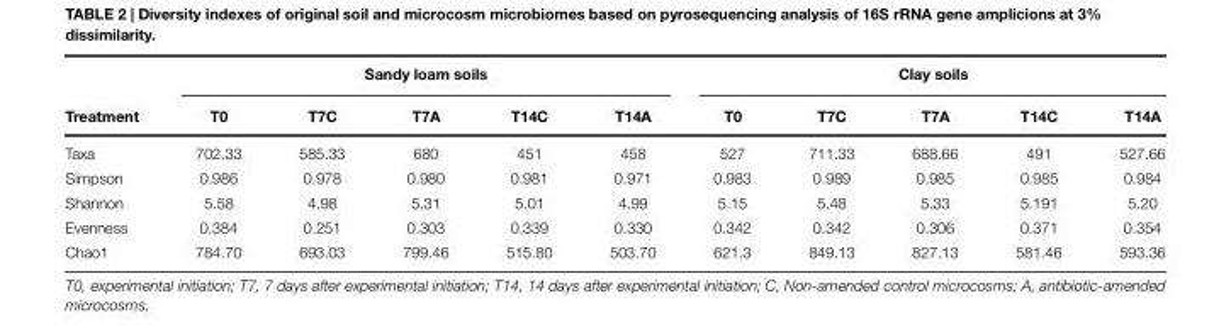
<table><thead><tr><td rowspan="2">Treatment</td><td colspan="5">Sandy loam soils</td><td colspan="5">Clay soils</td></tr><tr><td>T0</td><td>T7C</td><td>T7A</td><td>T14C</td><td>T14A</td><td>T0</td><td>T7C</td><td>T7A</td><td>T14C</td><td>T14A</td></tr></thead><tbody><tr><td>Taxa</td><td>702.33</td><td>585.33</td><td>680</td><td>451</td><td>458</td><td>527</td><td>711.33</td><td>688.66</td><td>491</td><td>527.66</td></tr><tr><td>Simpson</td><td>0.986</td><td>0.978</td><td>0.980</td><td>0.981</td><td>0.971</td><td>0.983</td><td>0.989</td><td>0.985</td><td>0.985</td><td>0.984</td></tr><tr><td>Shannon</td><td>5.58</td><td>4.98</td><td>5.31</td><td>5.01</td><td>4.99</td><td>5.15</td><td>5.48</td><td>5.33</td><td>5.191</td><td>5.20</td></tr><tr><td>Evenness</td><td>0.384</td><td>0.251</td><td>0.303</td><td>0.339</td><td>0.330</td><td>0.342</td><td>0.342</td><td>0.306</td><td>0.371</td><td>0.354</td></tr><tr><td>Chao1</td><td>784.70</td><td>693.03</td><td>799.46</td><td>515.80</td><td>503.70</td><td>621.3</td><td>849.13</td><td>827.13</td><td>581.46</td><td>593.36</td></tr></tbody></table>